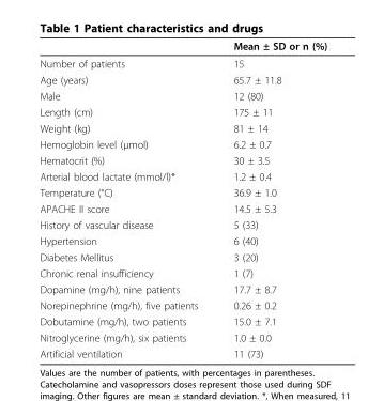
<table><thead><tr><td></td><td>Mean ± SD or n (%)</td></tr></thead><tbody><tr><td>Number of patients</td><td>15</td></tr><tr><td>Age (years)</td><td>65.7 ± 11.8</td></tr><tr><td>Male</td><td>12 (80)</td></tr><tr><td>Length (cm)</td><td>175 ± 11</td></tr><tr><td>Weight (kg)</td><td>81 ± 14</td></tr><tr><td>Hemoglobin level (μmol)</td><td>6.2 ± 0.7</td></tr><tr><td>Hematocrit (%)</td><td>30 ± 3.5</td></tr><tr><td>Arterial blood lactate (mmol/l)*</td><td>1.2 ± 0.4</td></tr><tr><td>Temperature (°C)</td><td>36.9 ± 1.0</td></tr><tr><td>APACHE II score</td><td>14.5 ± 5.3</td></tr><tr><td>History of vascular disease</td><td>5 (33)</td></tr><tr><td>Hypertension</td><td>6 (40)</td></tr><tr><td>Diabetes Mellitus</td><td>3 (20)</td></tr><tr><td>Chronic renal insufficiency</td><td>1 (7)</td></tr><tr><td>Dopamine (mg/h), nine patients</td><td>17.7 ± 8.7</td></tr><tr><td>Norepinephrine (mg/h), five patients</td><td>0.26 ± 0.2</td></tr><tr><td>Dobutamine (mg/h), two patients</td><td>15.0 ± 7.1</td></tr><tr><td>Nitroglycerine (mg/h), six patients</td><td>1.0 ± 0.0</td></tr><tr><td>Artificial ventilation</td><td>11 (73)</td></tr></tbody></table>